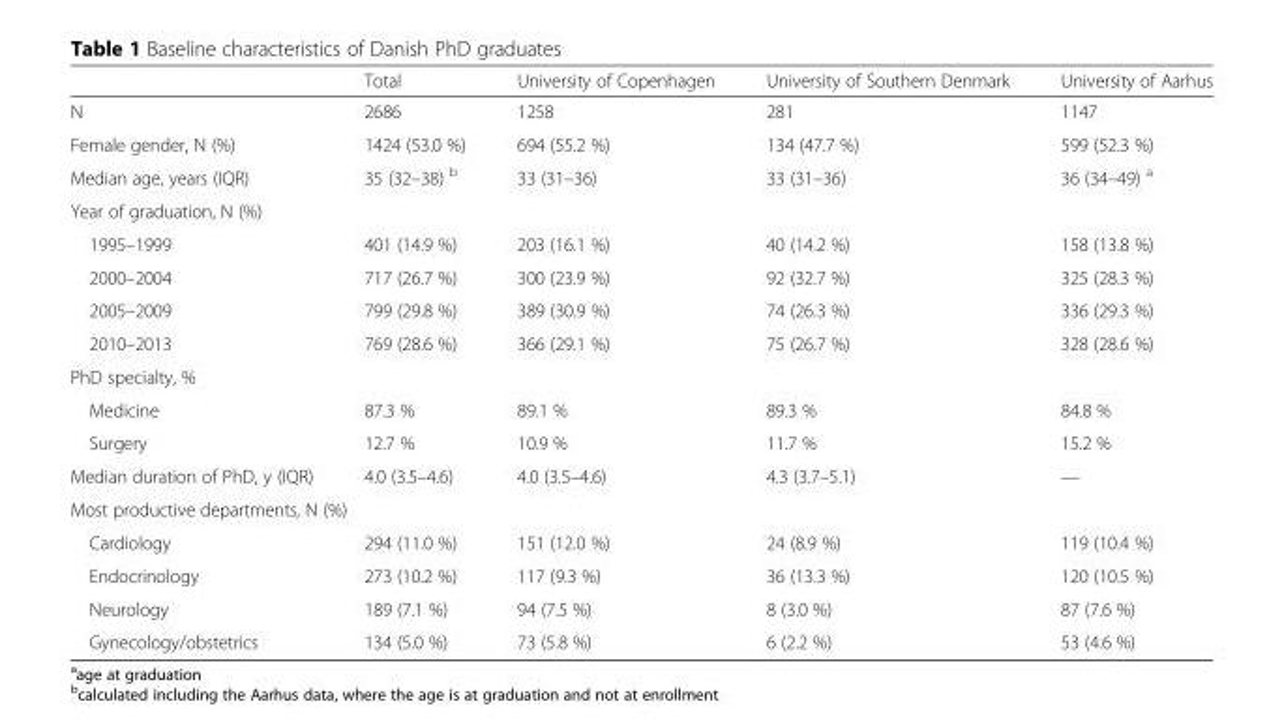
<table><thead><tr><td></td><td>Total</td><td>University of Copenhagen</td><td>University of Southern Denmark</td><td>University of Aarhus</td></tr></thead><tbody><tr><td>N</td><td>2686</td><td>1258</td><td>281</td><td>1147</td></tr><tr><td>Female gender, N (%)</td><td>1424 (53.0 %)</td><td>694 (55.2 %)</td><td>134 (47.7 %)</td><td>599 (52.3 %)</td></tr><tr><td>Median age, years (IQR)</td><td>35 (32–38) <sup>b</sup></td><td>33 (31–36)</td><td>33 (31–36)</td><td>36 (34–49) <sup>a</sup></td></tr><tr><td colspan="5">Year of graduation, N (%)</td></tr><tr><td>1995–1999</td><td>401 (14.9 %)</td><td>203 (16.1 %)</td><td>40 (14.2 %)</td><td>158 (13.8 %)</td></tr><tr><td>2000–2004</td><td>717 (26.7 %)</td><td>300 (23.9 %)</td><td>92 (32.7 %)</td><td>325 (28.3 %)</td></tr><tr><td>2005–2009</td><td>799 (29.8 %)</td><td>389 (30.9 %)</td><td>74 (26.3 %)</td><td>336 (29.3 %)</td></tr><tr><td>2010–2013</td><td>769 (28.6 %)</td><td>366 (29.1 %)</td><td>75 (26.7 %)</td><td>328 (28.6 %)</td></tr><tr><td colspan="5">PhD specialty, %</td></tr><tr><td>Medicine</td><td>87.3 %</td><td>89.1 %</td><td>89.3 %</td><td>84.8 %</td></tr><tr><td>Surgery</td><td>12.7 %</td><td>10.9 %</td><td>11.7 %</td><td>15.2 %</td></tr><tr><td>Median duration of PhD, y (IQR)</td><td>4.0 (3.5–4.6)</td><td>4.0 (3.5–4.6)</td><td>4.3 (3.7–5.1)</td><td>—</td></tr><tr><td colspan="5">Most productive departments, N (%)</td></tr><tr><td>Cardiology</td><td>294 (11.0 %)</td><td>151 (12.0 %)</td><td>24 (8.9 %)</td><td>119 (10.4 %)</td></tr><tr><td>Endocrinology</td><td>273 (10.2 %)</td><td>117 (9.3 %)</td><td>36 (13.3 %)</td><td>120 (10.5 %)</td></tr><tr><td>Neurology</td><td>189 (7.1 %)</td><td>94 (7.5 %)</td><td>8 (3.0 %)</td><td>87 (7.6 %)</td></tr><tr><td>Gynecology/obstetrics</td><td>134 (5.0 %)</td><td>73 (5.8 %)</td><td>6 (2.2 %)</td><td>53 (4.6 %)</td></tr></tbody></table>